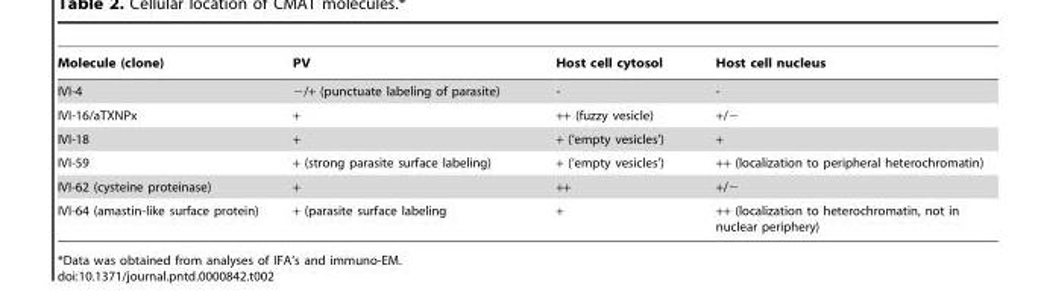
<table><thead><tr><td>Molecule (clone)</td><td>PV</td><td>Host cell cytosol</td><td>Host cell nucleus</td></tr></thead><tbody><tr><td>IVI-4</td><td>−/+ (punctuate labeling of parasite)</td><td>-</td><td>-</td></tr><tr><td>IVI-16/aTXNPx</td><td>+</td><td>++ (fuzzy vesicle)</td><td>+/−</td></tr><tr><td>IVI-18</td><td>+</td><td>+ (‘empty vesicles’)</td><td>+</td></tr><tr><td>IVI-59</td><td>+ (strong parasite surface labeling)</td><td>+ (‘empty vesicles’)</td><td>++ (localization to peripheral heterochromatin)</td></tr><tr><td>IVI-62 (cysteine proteinase)</td><td>+</td><td>++</td><td>+/−</td></tr><tr><td>IVI-64 (amastin-like surface protein)</td><td>+ (parasite surface labeling</td><td>+</td><td>++ (localization to heterochromatin, not in nuclear periphery)</td></tr></tbody></table>